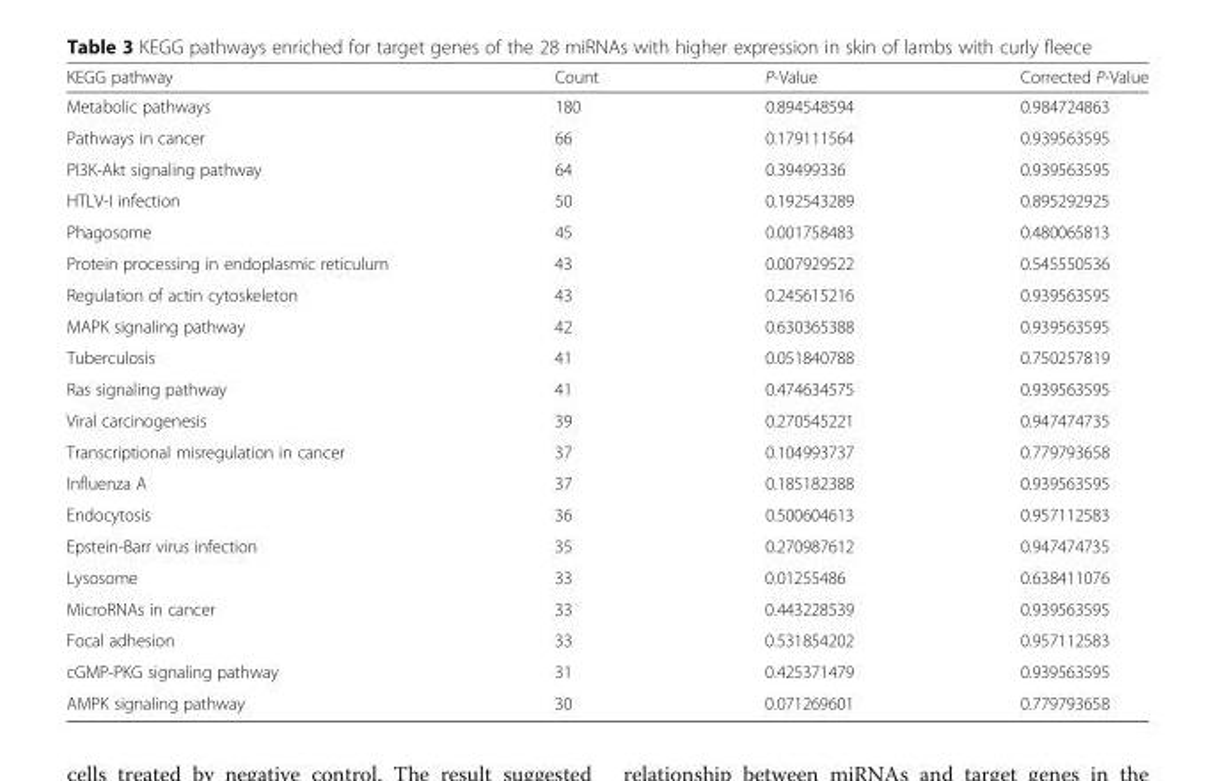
<table><thead><tr><td>KEGG pathway</td><td>Count</td><td>P-Value</td><td>Corrected P-Value</td></tr></thead><tbody><tr><td>Metabolic pathways</td><td>180</td><td>0.894548594</td><td>0.984724863</td></tr><tr><td>Pathways in cancer</td><td>66</td><td>0.179111564</td><td>0.939563595</td></tr><tr><td>PI3K-Akt signaling pathway</td><td>64</td><td>0.39499336</td><td>0.939563595</td></tr><tr><td>HTLV-I infection</td><td>50</td><td>0.192543289</td><td>0.895292925</td></tr><tr><td>Phagosome</td><td>45</td><td>0.001758483</td><td>0.480065813</td></tr><tr><td>Protein processing in endoplasmic reticulum</td><td>43</td><td>0.007929522</td><td>0.545550536</td></tr><tr><td>Regulation of actin cytoskeleton</td><td>43</td><td>0.245615216</td><td>0.939563595</td></tr><tr><td>MAPK signaling pathway</td><td>42</td><td>0.630365388</td><td>0.939563595</td></tr><tr><td>Tuberculosis</td><td>41</td><td>0.051840788</td><td>0.750257819</td></tr><tr><td>Ras signaling pathway</td><td>41</td><td>0.474634575</td><td>0.939563595</td></tr><tr><td>Viral carcinogenesis</td><td>39</td><td>0.270545221</td><td>0.947474735</td></tr><tr><td>Transcriptional misregulation in cancer</td><td>37</td><td>0.104993737</td><td>0.779793658</td></tr><tr><td>Influenza A</td><td>37</td><td>0.185182388</td><td>0.939563595</td></tr><tr><td>Endocytosis</td><td>36</td><td>0.500604613</td><td>0.957112583</td></tr><tr><td>Epstein-Barr virus infection</td><td>35</td><td>0.270987612</td><td>0.947474735</td></tr><tr><td>Lysosome</td><td>33</td><td>0.01255486</td><td>0.638411076</td></tr><tr><td>MicroRNAs in cancer</td><td>33</td><td>0.443228539</td><td>0.939563595</td></tr><tr><td>Focal adhesion</td><td>33</td><td>0.531854202</td><td>0.957112583</td></tr><tr><td>cGMP-PKG signaling pathway</td><td>31</td><td>0.425371479</td><td>0.939563595</td></tr><tr><td>AMPK signaling pathway</td><td>30</td><td>0.071269601</td><td>0.779793658</td></tr></tbody></table>